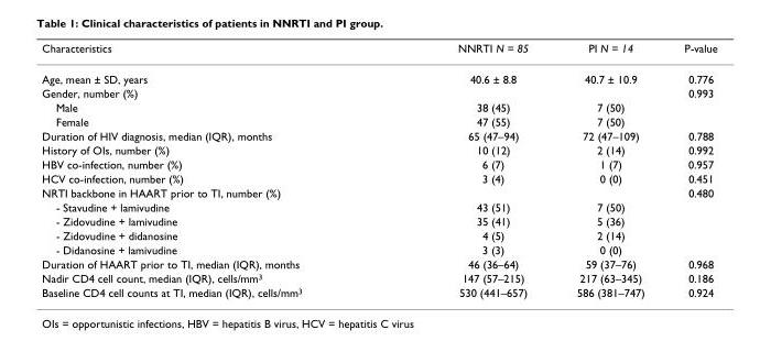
<table><thead><tr><td>Characteristics</td><td>NNRTI N = 85</td><td>PI N = 14</td><td>P-value</td></tr></thead><tbody><tr><td>Age, mean ± SD, years</td><td>40.6 ± 8.8</td><td>40.7 ± 10.9</td><td>0.776</td></tr><tr><td>Gender, number (%)</td><td></td><td></td><td>0.993</td></tr><tr><td>Male</td><td>38 (45)</td><td>7 (50)</td><td></td></tr><tr><td>Female</td><td>47 (55)</td><td>7 (50)</td><td></td></tr><tr><td>Duration of HIV diagnosis, median (IQR), months</td><td>65 (47–94)</td><td>72 (47–109)</td><td>0.788</td></tr><tr><td>History of OIs, number (%)</td><td>10 (12)</td><td>2 (14)</td><td>0.992</td></tr><tr><td>HBV co-infection, number (%)</td><td>6 (7)</td><td>1 (7)</td><td>0.957</td></tr><tr><td>HCV co-infection, number (%)</td><td>3 (4)</td><td>0 (0)</td><td>0.451</td></tr><tr><td>NRTI backbone in HAART prior to TI, number (%)</td><td></td><td></td><td>0.480</td></tr><tr><td>- Stavudine + lamivudine</td><td>43 (51)</td><td>7 (50)</td><td></td></tr><tr><td>- Zidovudine + lamivudine</td><td>35 (41)</td><td>5 (36)</td><td></td></tr><tr><td>- Zidovudine + didanosine</td><td>4 (5)</td><td>2 (14)</td><td></td></tr><tr><td>- Didanosine + lamivudine</td><td>3 (3)</td><td>0 (0)</td><td></td></tr><tr><td>Duration of HAART prior to TI, median (IQR), months</td><td>46 (36–64)</td><td>59 (37–76)</td><td>0.968</td></tr><tr><td>Nadir CD4 cell count, median (IQR), cells/mm<sup>3</sup></td><td>147 (57–215)</td><td>217 (63–345)</td><td>0.186</td></tr><tr><td>Baseline CD4 cell counts at TI, median (IQR), cells/mm<sup>3</sup></td><td>530 (441–657)</td><td>586 (381–747)</td><td>0.924</td></tr></tbody></table>